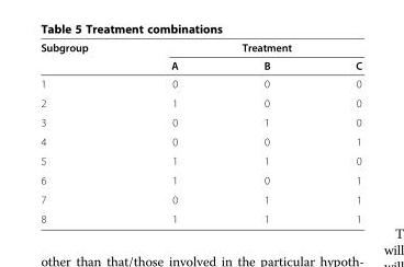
<table><thead><tr><td rowspan="2">Subgroup</td><td colspan="3">Treatment</td></tr><tr><td>A</td><td>B</td><td>C</td></tr></thead><tbody><tr><td>1</td><td>0</td><td>0</td><td>0</td></tr><tr><td>2</td><td>1</td><td>0</td><td>0</td></tr><tr><td>3</td><td>0</td><td>1</td><td>0</td></tr><tr><td>4</td><td>0</td><td>0</td><td>1</td></tr><tr><td>5</td><td>1</td><td>1</td><td>0</td></tr><tr><td>6</td><td>1</td><td>0</td><td>1</td></tr><tr><td>7</td><td>0</td><td>1</td><td>1</td></tr><tr><td>8</td><td>1</td><td>1</td><td>1</td></tr></tbody></table>